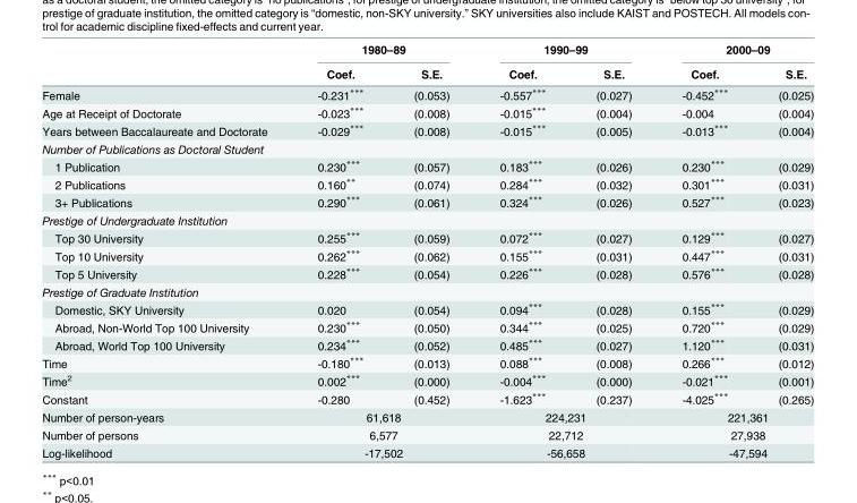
<table><thead><tr><td rowspan="2"></td><td colspan="2">1980–89</td><td colspan="2">1990–99</td><td colspan="2">2000–09</td></tr><tr><td>Coef.</td><td>S.E.</td><td>Coef.</td><td>S.E.</td><td>Coef.</td><td>S.E.</td></tr></thead><tbody><tr><td>Female</td><td>-0.231***</td><td>(0.053)</td><td>-0.557***</td><td>(0.027)</td><td>-0.452***</td><td>(0.025)</td></tr><tr><td>Age at Receipt of Doctorate</td><td>-0.023***</td><td>(0.008)</td><td>-0.015***</td><td>(0.004)</td><td>-0.004</td><td>(0.004)</td></tr><tr><td>Years between Baccalaureate and Doctorate</td><td>-0.029***</td><td>(0.008)</td><td>-0.015***</td><td>(0.005)</td><td>-0.013***</td><td>(0.004)</td></tr><tr><td colspan="7">Number of Publications as Doctoral Student</td></tr><tr><td>1 Publication</td><td>0.230***</td><td>(0.057)</td><td>0.183***</td><td>(0.026)</td><td>0.230***</td><td>(0.029)</td></tr><tr><td>2 Publications</td><td>0.160**</td><td>(0.074)</td><td>0.284***</td><td>(0.032)</td><td>0.301***</td><td>(0.031)</td></tr><tr><td>3+ Publications</td><td>0.290***</td><td>(0.061)</td><td>0.324***</td><td>(0.026)</td><td>0.527***</td><td>(0.023)</td></tr><tr><td colspan="7">Prestige of Undergraduate Institution</td></tr><tr><td>Top 30 University</td><td>0.255***</td><td>(0.059)</td><td>0.072***</td><td>(0.027)</td><td>0.129***</td><td>(0.027)</td></tr><tr><td>Top 10 University</td><td>0.262***</td><td>(0.062)</td><td>0.155***</td><td>(0.031)</td><td>0.447***</td><td>(0.031)</td></tr><tr><td>Top 5 University</td><td>0.228***</td><td>(0.054)</td><td>0.226***</td><td>(0.028)</td><td>0.576***</td><td>(0.028)</td></tr><tr><td colspan="7">Prestige of Graduate Institution</td></tr><tr><td>Domestic, SKY University</td><td>0.020</td><td>(0.054)</td><td>0.094***</td><td>(0.028)</td><td>0.155***</td><td>(0.029)</td></tr><tr><td>Abroad, Non-World Top 100 University</td><td>0.230***</td><td>(0.050)</td><td>0.344***</td><td>(0.025)</td><td>0.720***</td><td>(0.029)</td></tr><tr><td>Abroad, World Top 100 University</td><td>0.234***</td><td>(0.052)</td><td>0.485***</td><td>(0.027)</td><td>1.120***</td><td>(0.031)</td></tr><tr><td>Time</td><td>-0.180***</td><td>(0.013)</td><td>0.088***</td><td>(0.008)</td><td>0.266***</td><td>(0.012)</td></tr><tr><td>Time<sup>2</sup></td><td>0.002***</td><td>(0.000)</td><td>-0.004***</td><td>(0.000)</td><td>-0.021***</td><td>(0.001)</td></tr><tr><td>Constant</td><td>-0.280</td><td>(0.452)</td><td>-1.623***</td><td>(0.237)</td><td>-4.025***</td><td>(0.265)</td></tr><tr><td>Number of person-years</td><td colspan="2">61,618</td><td colspan="2">224,231</td><td colspan="2">221,361</td></tr><tr><td>Number of persons</td><td colspan="2">6,577</td><td colspan="2">22,712</td><td colspan="2">27,938</td></tr><tr><td>Log-likelihood</td><td colspan="2">-17,502</td><td colspan="2">-56,658</td><td colspan="2">-47,594</td></tr></tbody></table>